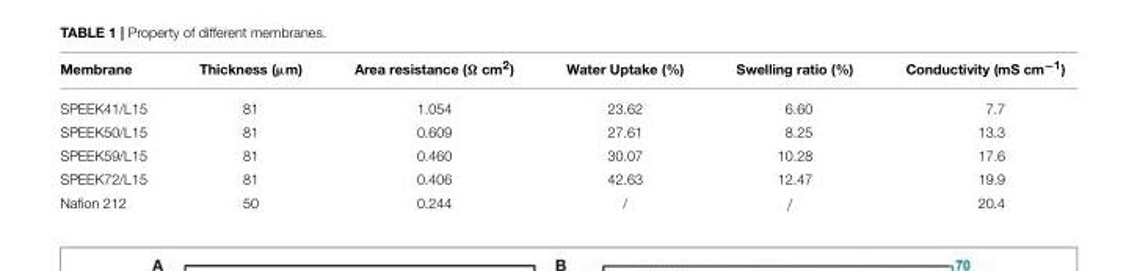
<table><thead><tr><td>Membrane</td><td>Thickness (µm)</td><td>Area resistance (Ω cm<sup>2</sup>)</td><td>Water Uptake (%)</td><td>Swelling ratio (%)</td><td>Conductivity (mS cm<sup>−1</sup>)</td></tr></thead><tbody><tr><td>SPEEK41/L15</td><td>81</td><td>1.054</td><td>23.62</td><td>6.60</td><td>7.7</td></tr><tr><td>SPEEK50/L15</td><td>81</td><td>0.609</td><td>27.61</td><td>8.25</td><td>13.3</td></tr><tr><td>SPEEK59/L15</td><td>81</td><td>0.460</td><td>30.07</td><td>10.28</td><td>17.6</td></tr><tr><td>SPEEK72/L15</td><td>81</td><td>0.406</td><td>42.63</td><td>12.47</td><td>19.9</td></tr><tr><td>Nafion 212</td><td>50</td><td>0.244</td><td>/</td><td>/</td><td>20.4</td></tr></tbody></table>